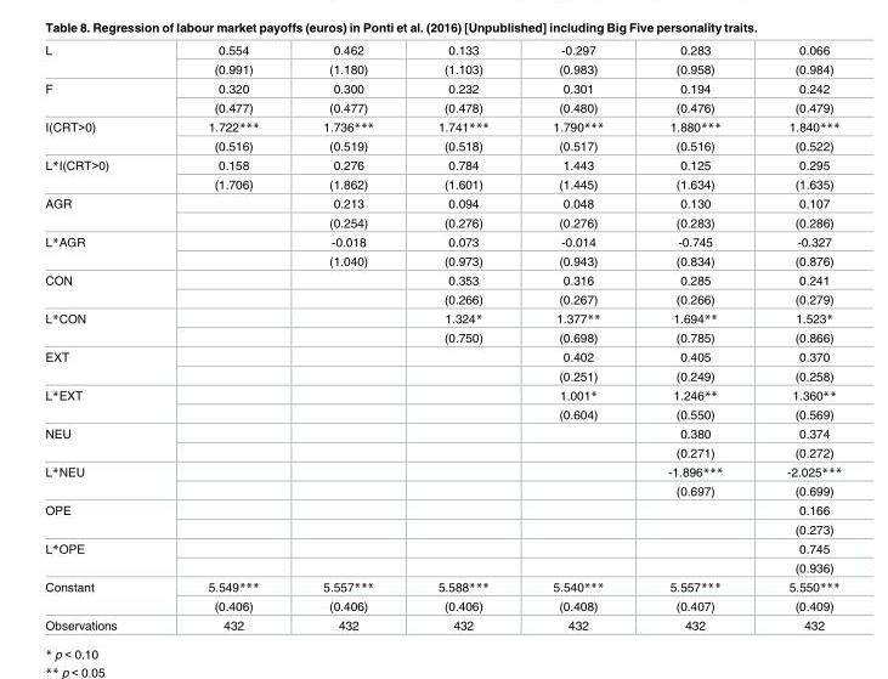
<table><tbody><tr><td rowspan="2">L</td><td>0.554</td><td>0.462</td><td>0.133</td><td>-0.297</td><td>0.283</td><td>0.066</td></tr><tr><td>(0.991)</td><td>(1.180)</td><td>(1.103)</td><td>(0.983)</td><td>(0.958)</td><td>(0.984)</td></tr><tr><td rowspan="2">F</td><td>0.320</td><td>0.300</td><td>0.232</td><td>0.301</td><td>0.194</td><td>0.242</td></tr><tr><td>(0.477)</td><td>(0.477)</td><td>(0.478)</td><td>(0.480)</td><td>(0.476)</td><td>(0.479)</td></tr><tr><td rowspan="2">I(CRT&gt;0)</td><td>1.722***</td><td>1.736***</td><td>1.741***</td><td>1.790***</td><td>1.880***</td><td>1.840***</td></tr><tr><td>(0.516)</td><td>(0.519)</td><td>(0.518)</td><td>(0.517)</td><td>(0.516)</td><td>(0.522)</td></tr><tr><td rowspan="2">L*I(CRT&gt;0)</td><td>0.158</td><td>0.276</td><td>0.784</td><td>1.443</td><td>0.125</td><td>0.295</td></tr><tr><td>(1.706)</td><td>(1.862)</td><td>(1.601)</td><td>(1.445)</td><td>(1.634)</td><td>(1.635)</td></tr><tr><td rowspan="2">AGR</td><td></td><td>0.213</td><td>0.094</td><td>0.048</td><td>0.130</td><td>0.107</td></tr><tr><td></td><td>(0.254)</td><td>(0.276)</td><td>(0.276)</td><td>(0.283)</td><td>(0.286)</td></tr><tr><td rowspan="2">L*AGR</td><td></td><td>-0.018</td><td>0.073</td><td>-0.014</td><td>-0.745</td><td>-0.327</td></tr><tr><td></td><td>(1.040)</td><td>(0.973)</td><td>(0.943)</td><td>(0.834)</td><td>(0.876)</td></tr><tr><td rowspan="2">CON</td><td></td><td></td><td>0.353</td><td>0.316</td><td>0.285</td><td>0.241</td></tr><tr><td></td><td></td><td>(0.266)</td><td>(0.267)</td><td>(0.266)</td><td>(0.279)</td></tr><tr><td rowspan="2">L*CON</td><td></td><td></td><td>1.324*</td><td>1.377**</td><td>1.694**</td><td>1.523*</td></tr><tr><td></td><td></td><td>(0.750)</td><td>(0.698)</td><td>(0.785)</td><td>(0.866)</td></tr><tr><td rowspan="2">EXT</td><td></td><td></td><td></td><td>0.402</td><td>0.405</td><td>0.370</td></tr><tr><td></td><td></td><td></td><td>(0.251)</td><td>(0.249)</td><td>(0.258)</td></tr><tr><td rowspan="2">L*EXT</td><td></td><td></td><td></td><td>1.001*</td><td>1.246**</td><td>1.360**</td></tr><tr><td></td><td></td><td></td><td>(0.604)</td><td>(0.550)</td><td>(0.569)</td></tr><tr><td rowspan="2">NEU</td><td></td><td></td><td></td><td></td><td>0.380</td><td>0.374</td></tr><tr><td></td><td></td><td></td><td></td><td>(0.271)</td><td>(0.272)</td></tr><tr><td rowspan="2">L*NEU</td><td></td><td></td><td></td><td></td><td>-1.896***</td><td>-2.025***</td></tr><tr><td></td><td></td><td></td><td></td><td>(0.697)</td><td>(0.699)</td></tr><tr><td rowspan="2">OPE</td><td></td><td></td><td></td><td></td><td></td><td>0.166</td></tr><tr><td></td><td></td><td></td><td></td><td></td><td>(0.273)</td></tr><tr><td rowspan="2">L*OPE</td><td></td><td></td><td></td><td></td><td></td><td>0.745</td></tr><tr><td></td><td></td><td></td><td></td><td></td><td>(0.936)</td></tr><tr><td rowspan="2">Constant</td><td>5.549***</td><td>5.557***</td><td>5.588***</td><td>5.540***</td><td>5.557***</td><td>5.550***</td></tr><tr><td>(0.406)</td><td>(0.406)</td><td>(0.406)</td><td>(0.408)</td><td>(0.407)</td><td>(0.409)</td></tr><tr><td>Observations</td><td>432</td><td>432</td><td>432</td><td>432</td><td>432</td><td>432</td></tr></tbody></table>